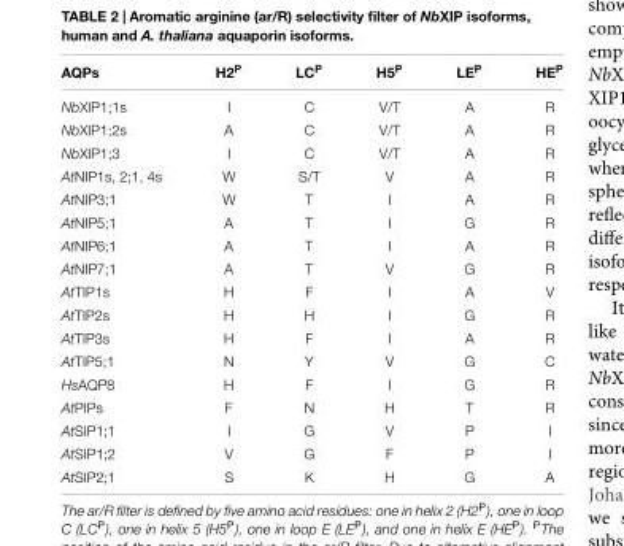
<table><thead><tr><td>AQPs</td><td>H2<sup>P</sup></td><td>LC<sup>P</sup></td><td>H5<sup>P</sup></td><td>LE<sup>P</sup></td><td>HE<sup>P</sup></td></tr></thead><tbody><tr><td>NbXIP1;1s</td><td>I</td><td>C</td><td>V/T</td><td>A</td><td>R</td></tr><tr><td>NbXIP1;2s</td><td>A</td><td>C</td><td>V/T</td><td>A</td><td>R</td></tr><tr><td>NbXIP1;3</td><td>I</td><td>C</td><td>V/T</td><td>A</td><td>R</td></tr><tr><td>AtNIP1s, 2;1, 4s</td><td>W</td><td>S/T</td><td>V</td><td>A</td><td>R</td></tr><tr><td>AtNIP3;1</td><td>W</td><td>T</td><td>I</td><td>A</td><td>R</td></tr><tr><td>AtNIP5;1</td><td>A</td><td>T</td><td>I</td><td>G</td><td>R</td></tr><tr><td>AtNIP6;1</td><td>A</td><td>T</td><td>I</td><td>A</td><td>R</td></tr><tr><td>AtNIP7;1</td><td>A</td><td>T</td><td>V</td><td>G</td><td>R</td></tr><tr><td>AtTIP1s</td><td>H</td><td>F</td><td>I</td><td>A</td><td>V</td></tr><tr><td>AtTIP2s</td><td>H</td><td>H</td><td>I</td><td>G</td><td>R</td></tr><tr><td>AtTIP3s</td><td>H</td><td>F</td><td>I</td><td>A</td><td>R</td></tr><tr><td>AtTIP5;1</td><td>N</td><td>Y</td><td>V</td><td>G</td><td>C</td></tr><tr><td>HsAQP8</td><td>H</td><td>F</td><td>I</td><td>G</td><td>R</td></tr><tr><td>AtPIPs</td><td>F</td><td>N</td><td>H</td><td>T</td><td>R</td></tr><tr><td>AtSIP1;1</td><td>I</td><td>G</td><td>V</td><td>P</td><td>I</td></tr><tr><td>AtSIP1;2</td><td>V</td><td>G</td><td>F</td><td>P</td><td>I</td></tr><tr><td>AtSIP2;1</td><td>S</td><td>K</td><td>H</td><td>G</td><td>A</td></tr></tbody></table>